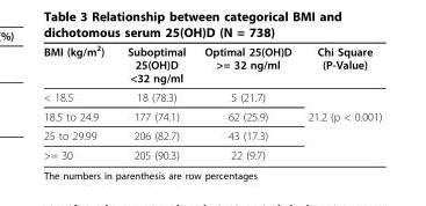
<table><thead><tr><td>BMI (kg/m<sup>2</sup>)</td><td>Suboptimal 25(OH)D &lt;32 ng/ml</td><td>Optimal 25(OH)D &gt;= 32 ng/ml</td><td>Chi Square (P-Value)</td></tr></thead><tbody><tr><td>&lt; 18.5</td><td>18 (78.3)</td><td>5 (21.7)</td><td></td></tr><tr><td>18.5 to 24.9</td><td>177 (74.1)</td><td>62 (25.9)</td><td>21.2 (p &lt; 0.001)</td></tr><tr><td>25 to 29.99</td><td>206 (82.7)</td><td>43 (17.3)</td><td></td></tr><tr><td>&gt;= 30</td><td>205 (90.3)</td><td>22 (9.7)</td><td></td></tr></tbody></table>